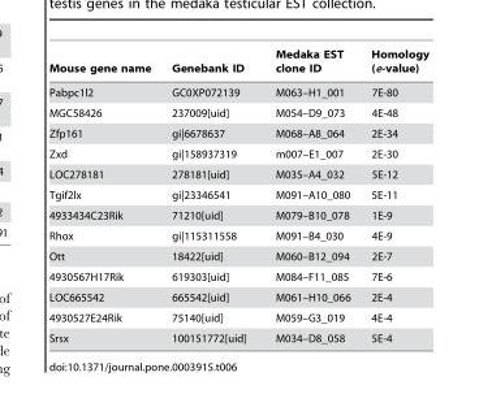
<table><thead><tr><td>Mouse gene name</td><td>Genebank ID</td><td>Medaka EST clone ID</td><td>Homology (e-value)</td></tr></thead><tbody><tr><td>Pabpc1l2</td><td>GC0XP072139</td><td>M063–H1_001</td><td>7E-80</td></tr><tr><td>MGC58426</td><td>237009[uid]</td><td>M054–D9_073</td><td>4E-48</td></tr><tr><td>Zfp161</td><td>gi|6678637</td><td>M068–A8_064</td><td>2E-34</td></tr><tr><td>Zxd</td><td>gi|158937319</td><td>m007–E1_007</td><td>2E-30</td></tr><tr><td>LOC278181</td><td>278181[uid]</td><td>M035–A4_032</td><td>5E-12</td></tr><tr><td>Tgif2lx</td><td>gi|23346541</td><td>M091–A10_080</td><td>5E-11</td></tr><tr><td>4933434C23Rik</td><td>71210[uid]</td><td>M079–B10_078</td><td>1E-9</td></tr><tr><td>Rhox</td><td>gi|115311558</td><td>M091–B4_030</td><td>4E-9</td></tr><tr><td>Ott</td><td>18422[uid]</td><td>M060–B12_094</td><td>2E-7</td></tr><tr><td>4930567H17Rik</td><td>619303[uid]</td><td>M084–F11_085</td><td>7E-6</td></tr><tr><td>LOC665542</td><td>665542[uid]</td><td>M061–H10_066</td><td>2E-4</td></tr><tr><td>4930527E24Rik</td><td>75140[uid]</td><td>M059–G3_019</td><td>4E-4</td></tr><tr><td>Srsx</td><td>100151772[uid]</td><td>M034–D8_058</td><td>5E-4</td></tr></tbody></table>